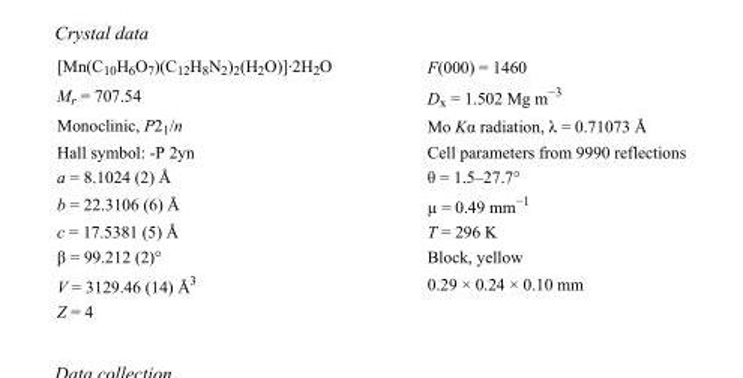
<table><tbody><tr><td>[Mn(C<sub>10</sub>H<sub>6</sub>O<sub>7</sub>)(C<sub>12</sub>H<sub>8</sub>N<sub>2</sub>)<sub>2</sub>(H<sub>2</sub>O)]·2H<sub>2</sub>O</td><td>F(000) = 1460</td></tr><tr><td>M<sub>r</sub> = 707.54</td><td>D<sub>x</sub> = 1.502 Mg m<sup>−3</sup></td></tr><tr><td>Monoclinic, P2<sub>1</sub>/n</td><td>Mo Kα radiation, λ = 0.71073 Å</td></tr><tr><td>Hall symbol: -P 2yn</td><td>Cell parameters from 9990 reflections</td></tr><tr><td>a = 8.1024 (2) Å</td><td>θ = 1.5–27.7°</td></tr><tr><td>b = 22.3106 (6) Å</td><td>µ = 0.49 mm<sup>−1</sup></td></tr><tr><td>c = 17.5381 (5) Å</td><td>T = 296 K</td></tr><tr><td>β = 99.212 (2)°</td><td>Block, yellow</td></tr><tr><td>V = 3129.46 (14) Å<sup>3</sup></td><td>0.29 × 0.24 × 0.10 mm</td></tr><tr><td>Z = 4</td><td></td></tr></tbody></table>